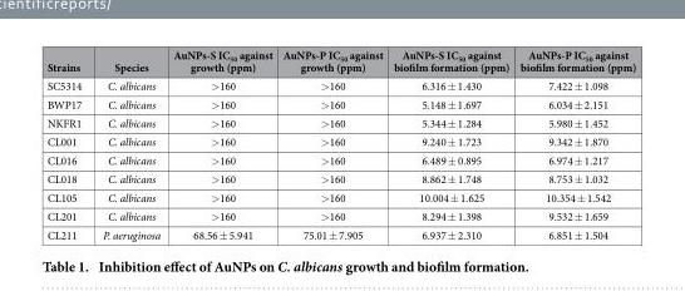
<table><thead><tr><td>Strains</td><td>Species</td><td>AuNPs-S IC<sub>50</sub> against growth (ppm)</td><td>AuNPs-P IC<sub>50</sub> against growth (ppm)</td><td>AuNPs-S IC<sub>50</sub> against biofilm formation (ppm)</td><td>AuNPs-P IC<sub>50</sub> against biofilm formation (ppm)</td></tr></thead><tbody><tr><td>SC5314</td><td>C. albicans</td><td>&gt; 160</td><td>&gt; 160</td><td>6.316 ± 1.430</td><td>7.422 ± 1.098</td></tr><tr><td>BWP17</td><td>C. albicans</td><td>&gt; 160</td><td>&gt; 160</td><td>5.148 ± 1.697</td><td>6.034 ± 2.151</td></tr><tr><td>NKFR1</td><td>C. albicans</td><td>&gt; 160</td><td>&gt; 160</td><td>5.344 ± 1.284</td><td>5.980 ± 1.452</td></tr><tr><td>CL001</td><td>C. albicans</td><td>&gt; 160</td><td>&gt; 160</td><td>9.240 ± 1.723</td><td>9.342 ± 1.870</td></tr><tr><td>CL016</td><td>C. albicans</td><td>&gt; 160</td><td>&gt; 160</td><td>6.489 ± 0.895</td><td>6.974 ± 1.217</td></tr><tr><td>CL018</td><td>C. albicans</td><td>&gt; 160</td><td>&gt; 160</td><td>8.862 ± 1.748</td><td>8.753 ± 1.032</td></tr><tr><td>CL105</td><td>C. albicans</td><td>&gt; 160</td><td>&gt; 160</td><td>10.004 ± 1.625</td><td>10.354 ± 1.542</td></tr><tr><td>CL201</td><td>C. albicans</td><td>&gt; 160</td><td>&gt; 160</td><td>8.294 ± 1.398</td><td>9.532 ± 1.659</td></tr><tr><td>CL211</td><td>P. aeruginosa</td><td>68.56 ± 5.941</td><td>75.01 ± 7.905</td><td>6.937 ± 2.310</td><td>6.851 ± 1.504</td></tr></tbody></table>